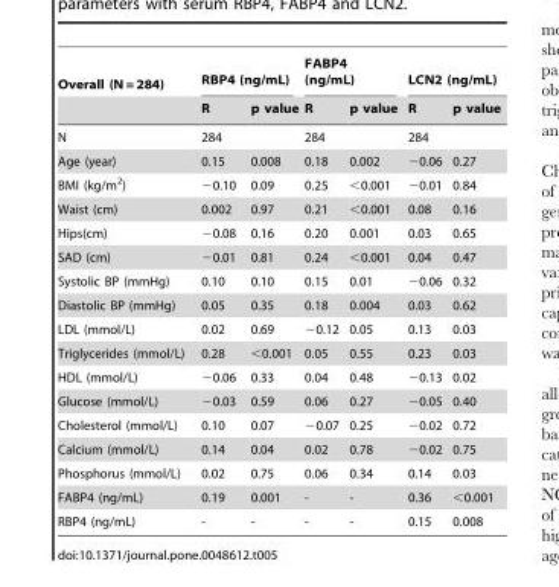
<table><thead><tr><td rowspan="2">Overall (N = 284)</td><td colspan="2">RBP4 (ng/mL)</td><td colspan="2">FABP4 (ng/mL)</td><td colspan="2">LCN2 (ng/mL)</td></tr><tr><td>R</td><td>p value</td><td>R</td><td>p value</td><td>R</td><td>p value</td></tr></thead><tbody><tr><td>N</td><td>284</td><td></td><td>284</td><td></td><td>284</td><td></td></tr><tr><td>Age (year)</td><td>0.15</td><td>0.008</td><td>0.18</td><td>0.002</td><td>−0.06</td><td>0.27</td></tr><tr><td>BMI (kg/m<sup>2</sup>)</td><td>−0.10</td><td>0.09</td><td>0.25</td><td>&lt;0.001</td><td>−0.01</td><td>0.84</td></tr><tr><td>Waist (cm)</td><td>0.002</td><td>0.97</td><td>0.21</td><td>&lt;0.001</td><td>0.08</td><td>0.16</td></tr><tr><td>Hips(cm)</td><td>−0.08</td><td>0.16</td><td>0.20</td><td>0.001</td><td>0.03</td><td>0.65</td></tr><tr><td>SAD (cm)</td><td>−0.01</td><td>0.81</td><td>0.24</td><td>&lt;0.001</td><td>0.04</td><td>0.47</td></tr><tr><td>Systolic BP (mmHg)</td><td>0.10</td><td>0.10</td><td>0.15</td><td>0.01</td><td>−0.06</td><td>0.32</td></tr><tr><td>Diastolic BP (mmHg)</td><td>0.05</td><td>0.35</td><td>0.18</td><td>0.004</td><td>0.03</td><td>0.62</td></tr><tr><td>LDL (mmol/L)</td><td>0.02</td><td>0.69</td><td>−0.12</td><td>0.05</td><td>0.13</td><td>0.03</td></tr><tr><td>Triglycerides (mmol/L)</td><td>0.28</td><td>&lt;0.001</td><td>0.05</td><td>0.55</td><td>0.23</td><td>0.03</td></tr><tr><td>HDL (mmol/L)</td><td>−0.06</td><td>0.33</td><td>0.04</td><td>0.48</td><td>−0.13</td><td>0.02</td></tr><tr><td>Glucose (mmol/L)</td><td>−0.03</td><td>0.59</td><td>0.06</td><td>0.27</td><td>−0.05</td><td>0.40</td></tr><tr><td>Cholesterol (mmol/L)</td><td>0.10</td><td>0.07</td><td>−0.07</td><td>0.25</td><td>−0.02</td><td>0.72</td></tr><tr><td>Calcium (mmol/L)</td><td>0.14</td><td>0.04</td><td>0.02</td><td>0.78</td><td>−0.02</td><td>0.75</td></tr><tr><td>Phosphorus (mmol/L)</td><td>0.02</td><td>0.75</td><td>0.06</td><td>0.34</td><td>0.14</td><td>0.03</td></tr><tr><td>FABP4 (ng/mL)</td><td>0.19</td><td>0.001</td><td>-</td><td>-</td><td>0.36</td><td>&lt;0.001</td></tr><tr><td>RBP4 (ng/mL)</td><td>-</td><td>-</td><td>-</td><td>-</td><td>0.15</td><td>0.008</td></tr></tbody></table>